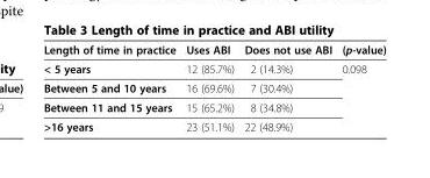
<table><thead><tr><td>Length of time in practice</td><td>Uses ABI</td><td>Does not use ABI</td><td>(p-value)</td></tr></thead><tbody><tr><td>&lt; 5 years</td><td>12 (85.7%)</td><td>2 (14.3%)</td><td>0.098</td></tr><tr><td>Between 5 and 10 years</td><td>16 (69.6%)</td><td>7 (30.4%)</td><td></td></tr><tr><td>Between 11 and 15 years</td><td>15 (65.2%)</td><td>8 (34.8%)</td><td></td></tr><tr><td>&gt;16 years</td><td>23 (51.1%)</td><td>22 (48.9%)</td><td></td></tr></tbody></table>